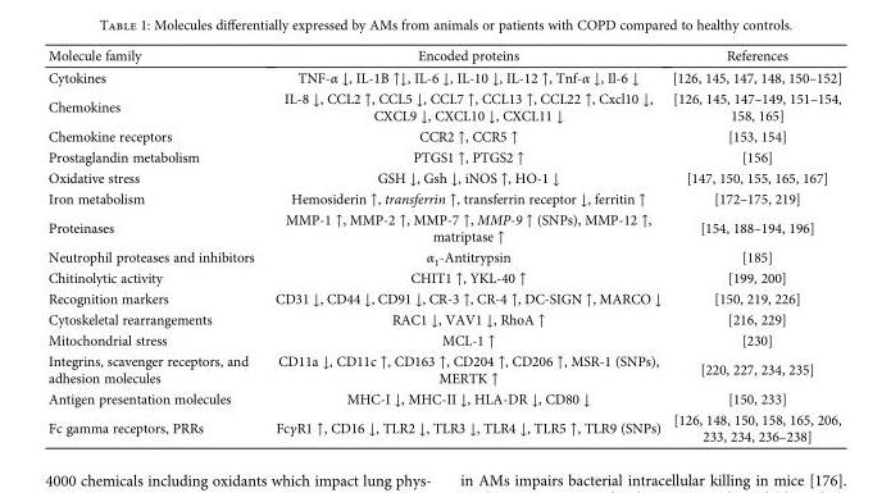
<table><thead><tr><td>Molecule family</td><td>Encoded proteins</td><td>References</td></tr></thead><tbody><tr><td>Cytokines</td><td>TNF-α ↓, IL-1B ↑↓, IL-6 ↓, IL-10 ↓, IL-12 ↑, Tnf-α ↓, Il-6 ↓</td><td>[126, 145, 147, 148, 150–152]</td></tr><tr><td>Chemokines</td><td>IL-8 ↓, CCL2 ↑, CCL5 ↓, CCL7 ↑, CCL13 ↑, CCL22 ↑, Cxcl10 ↓, CXCL9 ↓, CXCL10 ↓, CXCL11 ↓</td><td>[126, 145, 147–149, 151–154, 158, 165]</td></tr><tr><td>Chemokine receptors</td><td>CCR2 ↑, CCR5 ↑</td><td>[153, 154]</td></tr><tr><td>Prostaglandin metabolism</td><td>PTGS1 ↑, PTGS2 ↑</td><td>[156]</td></tr><tr><td>Oxidative stress</td><td>GSH ↓, Gsh ↓, iNOS ↑, HO-1 ↓</td><td>[147, 150, 155, 165, 167]</td></tr><tr><td>Iron metabolism</td><td>Hemosiderin ↑, transferrin ↑, transferrin receptor ↓, ferritin ↑</td><td>[172–175, 219]</td></tr><tr><td>Proteinases</td><td>MMP-1 ↑, MMP-2 ↑, MMP-7 ↑, MMP-9 ↑ (SNPs), MMP-12 ↑, matriptase ↑</td><td>[154, 188–194, 196]</td></tr><tr><td>Neutrophil proteases and inhibitors</td><td>α<sub>1</sub>-Antitrypsin</td><td>[185]</td></tr><tr><td>Chitinolytic activity</td><td>CHIT1 ↑, YKL-40 ↑</td><td>[199, 200]</td></tr><tr><td>Recognition markers</td><td>CD31 ↓, CD44 ↓, CD91 ↓, CR-3 ↑, CR-4 ↑, DC-SIGN ↑, MARCO ↓</td><td>[150, 219, 226]</td></tr><tr><td>Cytoskeletal rearrangements</td><td>RAC1 ↓, VAV1 ↓, RhoA ↑</td><td>[216, 229]</td></tr><tr><td>Mitochondrial stress</td><td>MCL-1 ↑</td><td>[230]</td></tr><tr><td>Integrins, scavenger receptors, and adhesion molecules</td><td>CD11a ↓, CD11c ↑, CD163 ↑, CD204 ↑, CD206 ↑, MSR-1 (SNPs), MERTK ↑</td><td>[220, 227, 234, 235]</td></tr><tr><td>Antigen presentation molecules</td><td>MHC-I ↓, MHC-II ↓, HLA-DR ↓, CD80 ↓</td><td>[150, 233]</td></tr><tr><td>Fc gamma receptors, PRRs</td><td>FcγR1 ↑, CD16 ↓, TLR2 ↓, TLR3 ↓, TLR4 ↓, TLR5 ↑, TLR9 (SNPs)</td><td>[126, 148, 150, 158, 165, 206, 233, 234, 236–238]</td></tr></tbody></table>